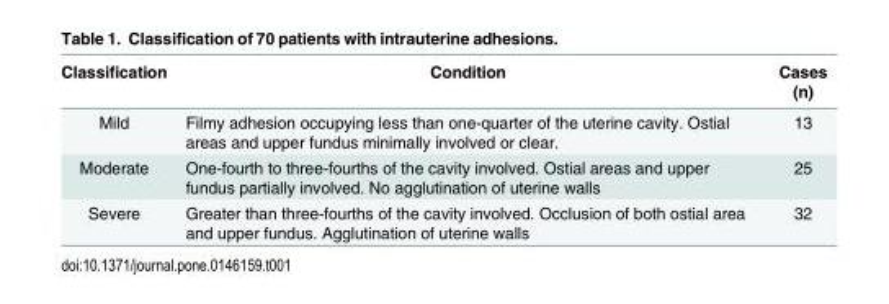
<table><thead><tr><td>Classification</td><td>Condition</td><td>Cases (n)</td></tr></thead><tbody><tr><td>Mild</td><td>Filmy adhesion occupying less than one-quarter of the uterine cavity. Ostial areas and upper fundus minimally involved or clear.</td><td>13</td></tr><tr><td>Moderate</td><td>One-fourth to three-fourths of the cavity involved. Ostial areas and upper fundus partially involved. No agglutination of uterine walls</td><td>25</td></tr><tr><td>Severe</td><td>Greater than three-fourths of the cavity involved. Occlusion of both ostial area and upper fundus. Agglutination of uterine walls</td><td>32</td></tr></tbody></table>